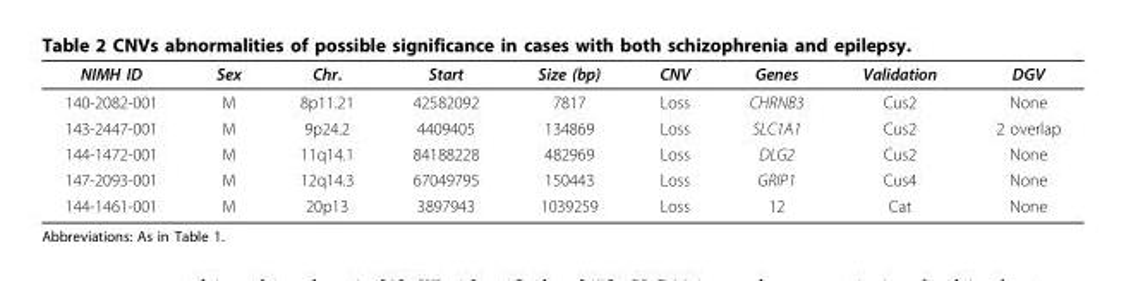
<table><thead><tr><td>NIMH ID</td><td>Sex</td><td>Chr.</td><td>Start</td><td>Size (bp)</td><td>CNV</td><td>Genes</td><td>Validation</td><td>DGV</td></tr></thead><tbody><tr><td>140-2082-001</td><td>M</td><td>8p11.21</td><td>42582092</td><td>7817</td><td>Loss</td><td>CHRNB3</td><td>Cus2</td><td>None</td></tr><tr><td>143-2447-001</td><td>M</td><td>9p24.2</td><td>4409405</td><td>134869</td><td>Loss</td><td>SLC1A1</td><td>Cus2</td><td>2 overlap</td></tr><tr><td>144-1472-001</td><td>M</td><td>11q14.1</td><td>84188228</td><td>482969</td><td>Loss</td><td>DLG2</td><td>Cus2</td><td>None</td></tr><tr><td>147-2093-001</td><td>M</td><td>12q14.3</td><td>67049795</td><td>150443</td><td>Loss</td><td>GRIP1</td><td>Cus4</td><td>None</td></tr><tr><td>144-1461-001</td><td>M</td><td>20p13</td><td>3897943</td><td>1039259</td><td>Loss</td><td>12</td><td>Cat</td><td>None</td></tr></tbody></table>